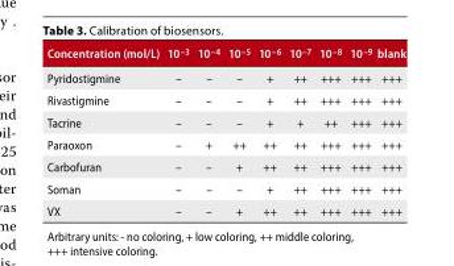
<table><thead><tr><td>Concentration (mol/L)</td><td>10<sup>–3</sup></td><td>10<sup>–4</sup></td><td>10<sup>–5</sup></td><td>10<sup>–6</sup></td><td>10<sup>–7</sup></td><td>10<sup>–8</sup></td><td>10<sup>–9</sup></td><td>blank</td></tr></thead><tbody><tr><td>Pyridostigmine</td><td>–</td><td>–</td><td>–</td><td>+</td><td>++</td><td>+++</td><td>+++</td><td>+++</td></tr><tr><td>Rivastigmine</td><td>–</td><td>–</td><td>–</td><td>+</td><td>++</td><td>+++</td><td>+++</td><td>+++</td></tr><tr><td>Tacrine</td><td>–</td><td>–</td><td>–</td><td>+</td><td>+</td><td>++</td><td>+++</td><td>+++</td></tr><tr><td>Paraoxon</td><td>–</td><td>+</td><td>++</td><td>++</td><td>++</td><td>+++</td><td>+++</td><td>+++</td></tr><tr><td>Carbofuran</td><td>–</td><td>–</td><td>+</td><td>++</td><td>++</td><td>+++</td><td>+++</td><td>+++</td></tr><tr><td>Soman</td><td>–</td><td>–</td><td>–</td><td>+</td><td>++</td><td>+++</td><td>+++</td><td>+++</td></tr><tr><td>VX</td><td>–</td><td>–</td><td>+</td><td>++</td><td>++</td><td>+++</td><td>+++</td><td>+++</td></tr></tbody></table>